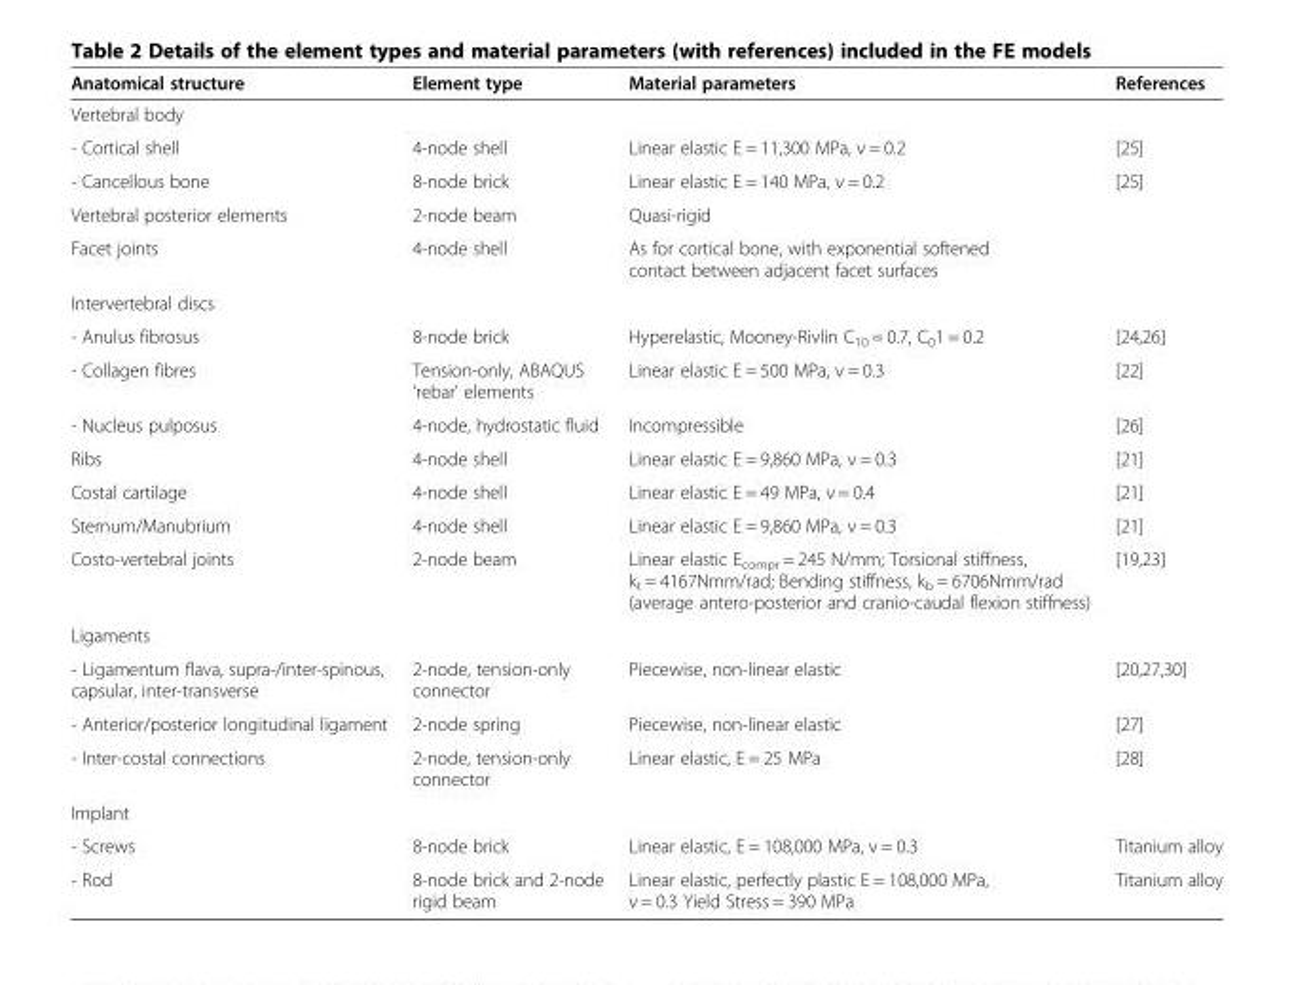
<table><thead><tr><td>Anatomical structure</td><td>Element type</td><td>Material parameters</td><td>References</td></tr></thead><tbody><tr><td colspan="4">Vertebral body</td></tr><tr><td>- Cortical shell</td><td>4-node shell</td><td>Linear elastic E = 11,300 MPa, ν = 0.2</td><td>[25]</td></tr><tr><td>- Cancellous bone</td><td>8-node brick</td><td>Linear elastic E = 140 MPa, ν = 0.2</td><td>[25]</td></tr><tr><td>Vertebral posterior elements</td><td>2-node beam</td><td>Quasi-rigid</td><td></td></tr><tr><td>Facet joints</td><td>4-node shell</td><td>As for cortical bone, with exponential softened contact between adjacent facet surfaces</td><td></td></tr><tr><td colspan="4">Intervertebral discs</td></tr><tr><td>- Anulus fibrosus</td><td>8-node brick</td><td>Hyperelastic, Mooney-Rivlin C<sub>10</sub> = 0.7, C<sub>0</sub>1 = 0.2</td><td>[24,26]</td></tr><tr><td>- Collagen fibres</td><td>Tension-only, ABAQUS ‘rebar’ elements</td><td>Linear elastic E = 500 MPa, ν = 0.3</td><td>[22]</td></tr><tr><td>- Nucleus pulposus</td><td>4-node, hydrostatic fluid</td><td>Incompressible</td><td>[26]</td></tr><tr><td>Ribs</td><td>4-node shell</td><td>Linear elastic E = 9,860 MPa, ν = 0.3</td><td>[21]</td></tr><tr><td>Costal cartilage</td><td>4-node shell</td><td>Linear elastic E = 49 MPa, ν = 0.4</td><td>[21]</td></tr><tr><td>Sternum/Manubrium</td><td>4-node shell</td><td>Linear elastic E = 9,860 MPa, ν = 0.3</td><td>[21]</td></tr><tr><td>Costo-vertebral joints</td><td>2-node beam</td><td>Linear elastic E<sub>compr</sub> = 245 N/mm; Torsional stiffness, k<sub>t</sub> = 4167Nmm/rad; Bending stiffness, k<sub>b</sub> = 6706Nmm/rad (average antero-posterior and cranio-caudal flexion stiffness)</td><td>[19,23]</td></tr><tr><td colspan="4">Ligaments</td></tr><tr><td>- Ligamentum flava, supra-/inter-spinous, capsular, inter-transverse</td><td>2-node, tension-only connector</td><td>Piecewise, non-linear elastic</td><td>[20,27,30]</td></tr><tr><td>- Anterior/posterior longitudinal ligament</td><td>2-node spring</td><td>Piecewise, non-linear elastic</td><td>[27]</td></tr><tr><td>- Inter-costal connections</td><td>2-node, tension-only connector</td><td>Linear elastic, E = 25 MPa</td><td>[28]</td></tr><tr><td colspan="4">Implant</td></tr><tr><td>- Screws</td><td>8-node brick</td><td>Linear elastic, E = 108,000 MPa, ν = 0.3</td><td>Titanium alloy</td></tr><tr><td>- Rod</td><td>8-node brick and 2-node rigid beam</td><td>Linear elastic, perfectly plastic E = 108,000 MPa, ν = 0.3 Yield Stress = 390 MPa</td><td>Titanium alloy</td></tr></tbody></table>